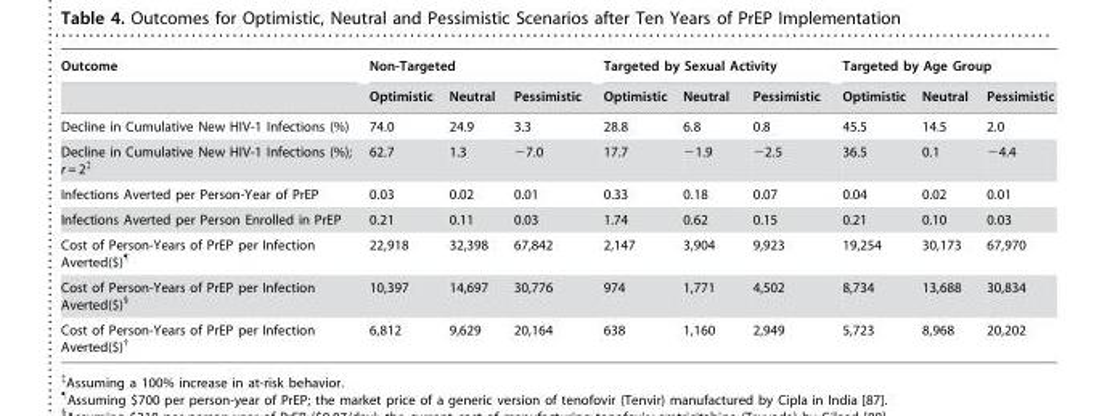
<table><thead><tr><td rowspan="2">Outcome</td><td colspan="3">Non-Targeted</td><td colspan="3">Targeted by Sexual Activity</td><td colspan="3">Targeted by Age Group</td></tr><tr><td>Optimistic</td><td>Neutral</td><td>Pessimistic</td><td>Optimistic</td><td>Neutral</td><td>Pessimistic</td><td>Optimistic</td><td>Neutral</td><td>Pessimistic</td></tr></thead><tbody><tr><td>Decline in Cumulative New HIV-1 Infections (%)</td><td>74.0</td><td>24.9</td><td>3.3</td><td>28.8</td><td>6.8</td><td>0.8</td><td>45.5</td><td>14.5</td><td>2.0</td></tr><tr><td>Decline in Cumulative New HIV-1 Infections (%); r = 2‡</td><td>62.7</td><td>1.3</td><td>−7.0</td><td>17.7</td><td>−1.9</td><td>−2.5</td><td>36.5</td><td>0.1</td><td>−4.4</td></tr><tr><td>Infections Averted per Person-Year of PrEP</td><td>0.03</td><td>0.02</td><td>0.01</td><td>0.33</td><td>0.18</td><td>0.07</td><td>0.04</td><td>0.02</td><td>0.01</td></tr><tr><td>Infections Averted per Person Enrolled in PrEP</td><td>0.21</td><td>0.11</td><td>0.03</td><td>1.74</td><td>0.62</td><td>0.15</td><td>0.21</td><td>0.10</td><td>0.03</td></tr><tr><td>Cost of Person-Years of PrEP per Infection Averted($)¶</td><td>22,918</td><td>32,398</td><td>67,842</td><td>2,147</td><td>3,904</td><td>9,923</td><td>19,254</td><td>30,173</td><td>67,970</td></tr><tr><td>Cost of Person-Years of PrEP per Infection Averted($)§</td><td>10,397</td><td>14,697</td><td>30,776</td><td>974</td><td>1,771</td><td>4,502</td><td>8,734</td><td>13,688</td><td>30,834</td></tr><tr><td>Cost of Person-Years of PrEP per Infection Averted($)†</td><td>6,812</td><td>9,629</td><td>20,164</td><td>638</td><td>1,160</td><td>2,949</td><td>5,723</td><td>8,968</td><td>20,202</td></tr></tbody></table>